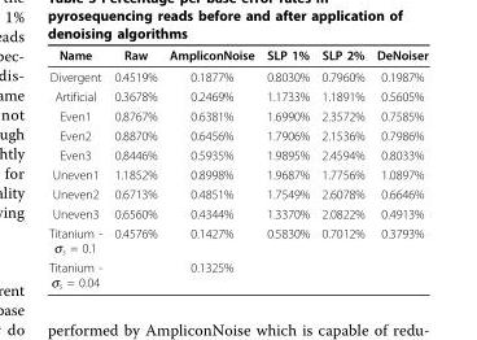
<table><thead><tr><td>Name</td><td>Raw</td><td>AmpliconNoise</td><td>SLP 1%</td><td>SLP 2%</td><td>DeNoiser</td></tr></thead><tbody><tr><td>Divergent</td><td>0.4519%</td><td>0.1877%</td><td>0.8030%</td><td>0.7960%</td><td>0.1987%</td></tr><tr><td>Artificial</td><td>0.3678%</td><td>0.2469%</td><td>1.1733%</td><td>1.1891%</td><td>0.5605%</td></tr><tr><td>Even1</td><td>0.8767%</td><td>0.6381%</td><td>1.6990%</td><td>2.3572%</td><td>0.7585%</td></tr><tr><td>Even2</td><td>0.8870%</td><td>0.6456%</td><td>1.7906%</td><td>2.1536%</td><td>0.7986%</td></tr><tr><td>Even3</td><td>0.8446%</td><td>0.5935%</td><td>1.9895%</td><td>2.4594%</td><td>0.8033%</td></tr><tr><td>Uneven1</td><td>1.1852%</td><td>0.8998%</td><td>1.9687%</td><td>1.7756%</td><td>1.0897%</td></tr><tr><td>Uneven2</td><td>0.6713%</td><td>0.4851%</td><td>1.7549%</td><td>2.6078%</td><td>0.6646%</td></tr><tr><td>Uneven3</td><td>0.6560%</td><td>0.4344%</td><td>1.3370%</td><td>2.0822%</td><td>0.4913%</td></tr><tr><td>Titanium - σ<sub>s</sub> = 0.1</td><td>0.4576%</td><td>0.1427%</td><td>0.5830%</td><td>0.7012%</td><td>0.3793%</td></tr><tr><td>Titanium - σ<sub>s</sub> = 0.04</td><td></td><td>0.1325%</td><td></td><td></td><td></td></tr></tbody></table>